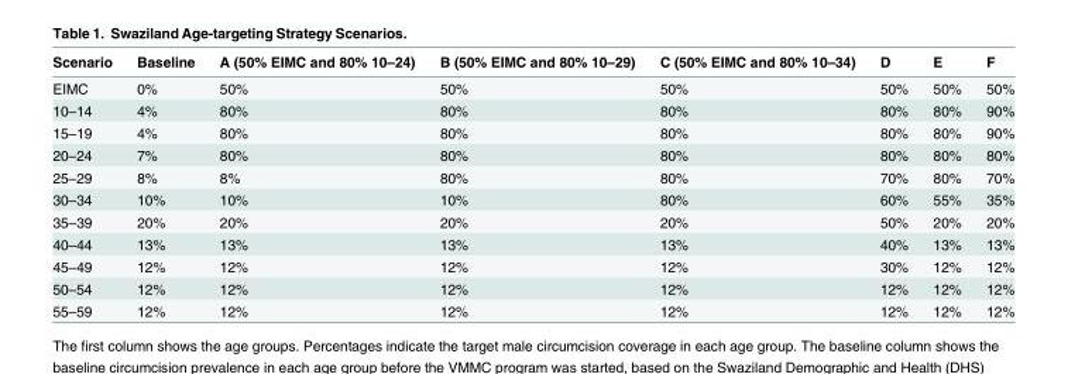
<table><thead><tr><td>Scenario</td><td>Baseline</td><td>A (50% EIMC and 80% 10–24)</td><td>B (50% EIMC and 80% 10–29)</td><td>C (50% EIMC and 80% 10–34)</td><td>D</td><td>E</td><td>F</td></tr></thead><tbody><tr><td>EIMC</td><td>0%</td><td>50%</td><td>50%</td><td>50%</td><td>50%</td><td>50%</td><td>50%</td></tr><tr><td>10–14</td><td>4%</td><td>80%</td><td>80%</td><td>80%</td><td>80%</td><td>80%</td><td>90%</td></tr><tr><td>15–19</td><td>4%</td><td>80%</td><td>80%</td><td>80%</td><td>80%</td><td>80%</td><td>90%</td></tr><tr><td>20–24</td><td>7%</td><td>80%</td><td>80%</td><td>80%</td><td>80%</td><td>80%</td><td>80%</td></tr><tr><td>25–29</td><td>8%</td><td>8%</td><td>80%</td><td>80%</td><td>70%</td><td>80%</td><td>70%</td></tr><tr><td>30–34</td><td>10%</td><td>10%</td><td>10%</td><td>80%</td><td>60%</td><td>55%</td><td>35%</td></tr><tr><td>35–39</td><td>20%</td><td>20%</td><td>20%</td><td>20%</td><td>50%</td><td>20%</td><td>20%</td></tr><tr><td>40–44</td><td>13%</td><td>13%</td><td>13%</td><td>13%</td><td>40%</td><td>13%</td><td>13%</td></tr><tr><td>45–49</td><td>12%</td><td>12%</td><td>12%</td><td>12%</td><td>30%</td><td>12%</td><td>12%</td></tr><tr><td>50–54</td><td>12%</td><td>12%</td><td>12%</td><td>12%</td><td>12%</td><td>12%</td><td>12%</td></tr><tr><td>55–59</td><td>12%</td><td>12%</td><td>12%</td><td>12%</td><td>12%</td><td>12%</td><td>12%</td></tr></tbody></table>